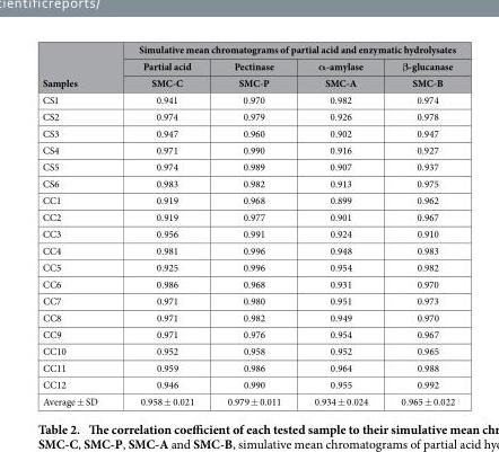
<table><thead><tr><td rowspan="3">Samples</td><td colspan="4">Simulative mean chromatograms of partial acid and enzymatic hydrolysates</td></tr><tr><td rowspan="2">Partial acid SMC-C</td><td rowspan="2">Pectinase SMC-P</td><td rowspan="2">α-amylase SMC-A</td><td rowspan="2">β-glucanase SMC-B</td></tr><tr></tr></thead><tbody><tr><td>CS1</td><td>0.941</td><td>0.970</td><td>0.982</td><td>0.974</td></tr><tr><td>CS2</td><td>0.974</td><td>0.979</td><td>0.926</td><td>0.978</td></tr><tr><td>CS3</td><td>0.947</td><td>0.960</td><td>0.902</td><td>0.947</td></tr><tr><td>CS4</td><td>0.971</td><td>0.990</td><td>0.916</td><td>0.927</td></tr><tr><td>CS5</td><td>0.974</td><td>0.989</td><td>0.907</td><td>0.937</td></tr><tr><td>CS6</td><td>0.983</td><td>0.982</td><td>0.913</td><td>0.975</td></tr><tr><td>CC1</td><td>0.919</td><td>0.968</td><td>0.899</td><td>0.962</td></tr><tr><td>CC2</td><td>0.919</td><td>0.977</td><td>0.901</td><td>0.967</td></tr><tr><td>CC3</td><td>0.956</td><td>0.991</td><td>0.924</td><td>0.910</td></tr><tr><td>CC4</td><td>0.981</td><td>0.996</td><td>0.948</td><td>0.983</td></tr><tr><td>CC5</td><td>0.925</td><td>0.996</td><td>0.954</td><td>0.982</td></tr><tr><td>CC6</td><td>0.986</td><td>0.968</td><td>0.931</td><td>0.970</td></tr><tr><td>CC7</td><td>0.971</td><td>0.980</td><td>0.951</td><td>0.973</td></tr><tr><td>CC8</td><td>0.971</td><td>0.982</td><td>0.949</td><td>0.970</td></tr><tr><td>CC9</td><td>0.971</td><td>0.976</td><td>0.954</td><td>0.967</td></tr><tr><td>CC10</td><td>0.952</td><td>0.958</td><td>0.952</td><td>0.965</td></tr><tr><td>CC11</td><td>0.959</td><td>0.986</td><td>0.964</td><td>0.988</td></tr><tr><td>CC12</td><td>0.946</td><td>0.990</td><td>0.955</td><td>0.992</td></tr><tr><td>Average ± SD</td><td>0.958 ± 0.021</td><td>0.979 ± 0.011</td><td>0.934 ± 0.024</td><td>0.965 ± 0.022</td></tr></tbody></table>